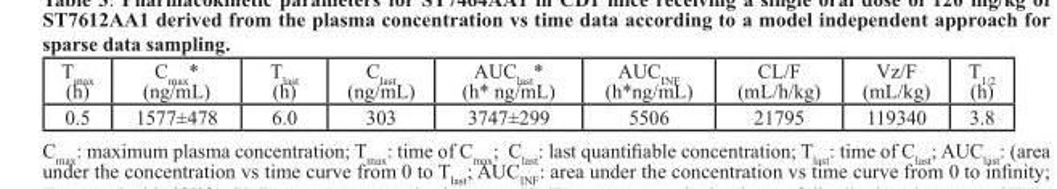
<table><thead><tr><td>T<sub>max</sub> (h)</td><td>C<sub>max</sub>* (ng/mL)</td><td>T<sub>last</sub> (h)</td><td>C<sub>last</sub> (ng/mL)</td><td>AUC<sub>last</sub>* (h* ng/mL)</td><td>AUC<sub>INF</sub> (h*ng/mL)</td><td>CL/F (mL/h/kg)</td><td>Vz/F (mL/kg)</td><td>T<sub>1/2</sub> (h)</td></tr></thead><tbody><tr><td>0.5</td><td>1577±478</td><td>6.0</td><td>303</td><td>3747±299</td><td>5506</td><td>21795</td><td>119340</td><td>3.8</td></tr></tbody></table>